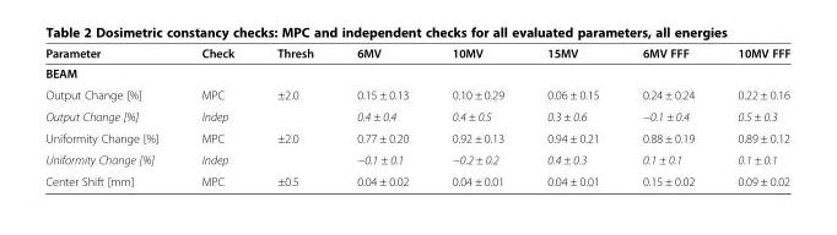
<table><thead><tr><td>Parameter</td><td>Check</td><td>Thresh</td><td>6MV</td><td>10MV</td><td>15MV</td><td>6MV FFF</td><td>10MV FFF</td></tr></thead><tbody><tr><td colspan="8">BEAM</td></tr><tr><td>Output Change [%]</td><td>MPC</td><td>±2.0</td><td>0.15 ± 0.13</td><td>0.10 ± 0.29</td><td>0.06 ± 0.15</td><td>0.24 ± 0.24</td><td>0.22 ± 0.16</td></tr><tr><td>Output Change [%]</td><td>Indep</td><td></td><td>0.4 ± 0.4</td><td>0.4 ± 0.5</td><td>0.3 ± 0.6</td><td>−0.1 ± 0.4</td><td>0.5 ± 0.3</td></tr><tr><td>Uniformity Change [%]</td><td>MPC</td><td>±2.0</td><td>0.77 ± 0.20</td><td>0.92 ± 0.13</td><td>0.94 ± 0.21</td><td>0.88 ± 0.19</td><td>0.89 ± 0.12</td></tr><tr><td>Uniformity Change [%]</td><td>Indep</td><td></td><td>−0.1 ± 0.1</td><td>−0.2 ± 0.2</td><td>0.4 ± 0.3</td><td>0.1 ± 0.1</td><td>0.1 ± 0.1</td></tr><tr><td>Center Shift [mm]</td><td>MPC</td><td>±0.5</td><td>0.04 ± 0.02</td><td>0.04 ± 0.01</td><td>0.04 ± 0.01</td><td>0.15 ± 0.02</td><td>0.09 ± 0.02</td></tr></tbody></table>